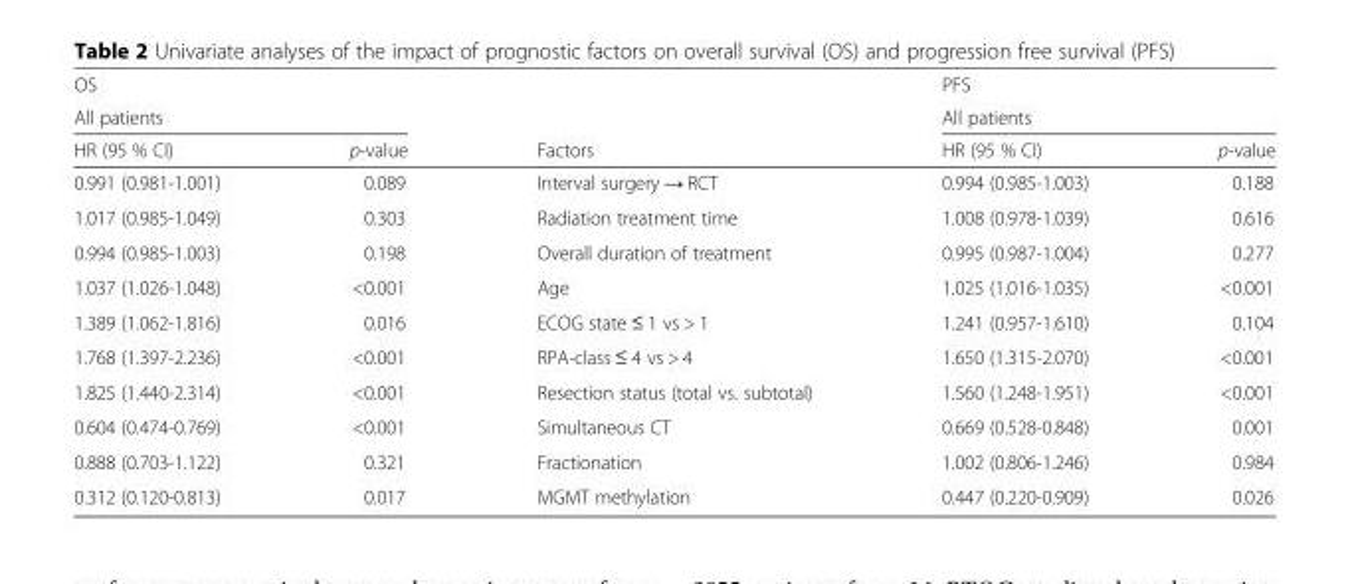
<table><thead><tr><td>OS</td><td></td><td rowspan="3">Factors</td><td>PFS</td><td></td></tr><tr><td colspan="2">All patients</td><td colspan="2">All patients</td></tr><tr><td>HR (95 % CI)</td><td>p-value</td><td>HR (95 % CI)</td><td>p-value</td></tr></thead><tbody><tr><td>0.991 (0.981-1.001)</td><td>0.089</td><td>Interval surgery → RCT</td><td>0.994 (0.985-1.003)</td><td>0.188</td></tr><tr><td>1.017 (0.985-1.049)</td><td>0.303</td><td>Radiation treatment time</td><td>1.008 (0.978-1.039)</td><td>0.616</td></tr><tr><td>0.994 (0.985-1.003)</td><td>0.198</td><td>Overall duration of treatment</td><td>0.995 (0.987-1.004)</td><td>0.277</td></tr><tr><td>1.037 (1.026-1.048)</td><td>&lt;0.001</td><td>Age</td><td>1.025 (1.016-1.035)</td><td>&lt;0.001</td></tr><tr><td>1.389 (1.062-1.816)</td><td>0.016</td><td>ECOG state ≤ 1 vs &gt; 1</td><td>1.241 (0.957-1.610)</td><td>0.104</td></tr><tr><td>1.768 (1.397-2.236)</td><td>&lt;0.001</td><td>RPA-class ≤ 4 vs &gt; 4</td><td>1.650 (1.315-2.070)</td><td>&lt;0.001</td></tr><tr><td>1.825 (1.440-2.314)</td><td>&lt;0.001</td><td>Resection status (total vs. subtotal)</td><td>1.560 (1.248-1.951)</td><td>&lt;0.001</td></tr><tr><td>0.604 (0.474-0.769)</td><td>&lt;0.001</td><td>Simultaneous CT</td><td>0.669 (0.528-0.848)</td><td>0.001</td></tr><tr><td>0.888 (0.703-1.122)</td><td>0.321</td><td>Fractionation</td><td>1.002 (0.806-1.246)</td><td>0.984</td></tr><tr><td>0.312 (0.120-0.813)</td><td>0.017</td><td>MGMT methylation</td><td>0.447 (0.220-0.909)</td><td>0.026</td></tr></tbody></table>